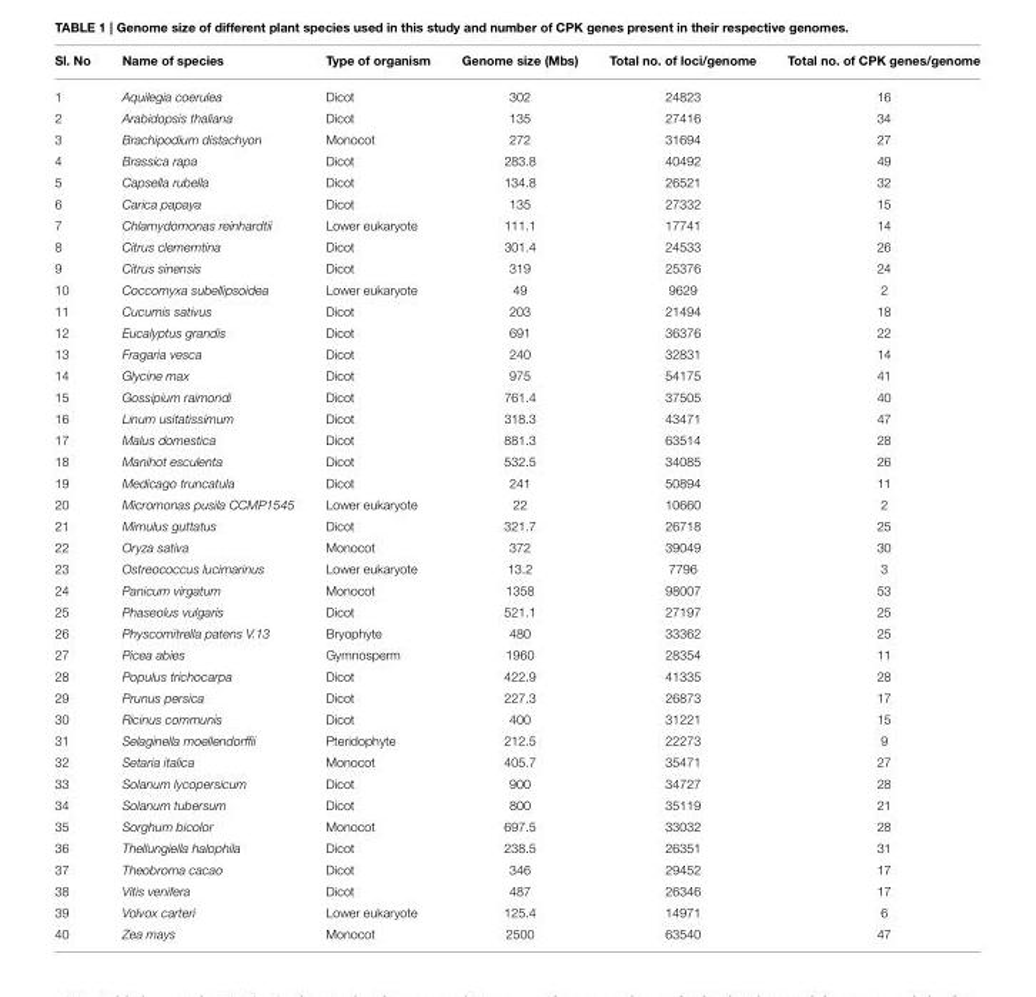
<table><thead><tr><td>Sl. No</td><td>Name of species</td><td>Type of organism</td><td>Genome size (Mbs)</td><td>Total no. of loci/genome</td><td>Total no. of CPK genes/genome</td></tr></thead><tbody><tr><td>1</td><td>Aquilegia coerulea</td><td>Dicot</td><td>302</td><td>24823</td><td>16</td></tr><tr><td>2</td><td>Arabidopsis thaliana</td><td>Dicot</td><td>135</td><td>27416</td><td>34</td></tr><tr><td>3</td><td>Brachipodium distachyon</td><td>Monocot</td><td>272</td><td>31694</td><td>27</td></tr><tr><td>4</td><td>Brassica rapa</td><td>Dicot</td><td>283.8</td><td>40492</td><td>49</td></tr><tr><td>5</td><td>Capsella rubella</td><td>Dicot</td><td>134.8</td><td>26521</td><td>32</td></tr><tr><td>6</td><td>Carica papaya</td><td>Dicot</td><td>135</td><td>27332</td><td>15</td></tr><tr><td>7</td><td>Chlamydomonas reinhardtii</td><td>Lower eukaryote</td><td>111.1</td><td>17741</td><td>14</td></tr><tr><td>8</td><td>Citrus clememtina</td><td>Dicot</td><td>301.4</td><td>24533</td><td>26</td></tr><tr><td>9</td><td>Citrus sinensis</td><td>Dicot</td><td>319</td><td>25376</td><td>24</td></tr><tr><td>10</td><td>Coccomyxa subellipsoidea</td><td>Lower eukaryote</td><td>49</td><td>9629</td><td>2</td></tr><tr><td>11</td><td>Cucumis sativus</td><td>Dicot</td><td>203</td><td>21494</td><td>18</td></tr><tr><td>12</td><td>Eucalyptus grandis</td><td>Dicot</td><td>691</td><td>36376</td><td>22</td></tr><tr><td>13</td><td>Fragaria vesca</td><td>Dicot</td><td>240</td><td>32831</td><td>14</td></tr><tr><td>14</td><td>Glycine max</td><td>Dicot</td><td>975</td><td>54175</td><td>41</td></tr><tr><td>15</td><td>Gossipium raimondi</td><td>Dicot</td><td>761.4</td><td>37505</td><td>40</td></tr><tr><td>16</td><td>Linum usitatissimum</td><td>Dicot</td><td>318.3</td><td>43471</td><td>47</td></tr><tr><td>17</td><td>Malus domestica</td><td>Dicot</td><td>881.3</td><td>63514</td><td>28</td></tr><tr><td>18</td><td>Manihot esculenta</td><td>Dicot</td><td>532.5</td><td>34085</td><td>26</td></tr><tr><td>19</td><td>Medicago truncatula</td><td>Dicot</td><td>241</td><td>50894</td><td>11</td></tr><tr><td>20</td><td>Micromonas pusila CCMP1545</td><td>Lower eukaryote</td><td>22</td><td>10660</td><td>2</td></tr><tr><td>21</td><td>Mimulus guttatus</td><td>Dicot</td><td>321.7</td><td>26718</td><td>25</td></tr><tr><td>22</td><td>Oryza sativa</td><td>Monocot</td><td>372</td><td>39049</td><td>30</td></tr><tr><td>23</td><td>Ostreococcus lucimarinus</td><td>Lower eukaryote</td><td>13.2</td><td>7796</td><td>3</td></tr><tr><td>24</td><td>Panicum virgatum</td><td>Monocot</td><td>1358</td><td>98007</td><td>53</td></tr><tr><td>25</td><td>Phaseolus vulgaris</td><td>Dicot</td><td>521.1</td><td>27197</td><td>25</td></tr><tr><td>26</td><td>Physcomitrella patens V.13</td><td>Bryophyte</td><td>480</td><td>33362</td><td>25</td></tr><tr><td>27</td><td>Picea abies</td><td>Gymnosperm</td><td>1960</td><td>28354</td><td>11</td></tr><tr><td>28</td><td>Populus trichocarpa</td><td>Dicot</td><td>422.9</td><td>41335</td><td>28</td></tr><tr><td>29</td><td>Prunus persica</td><td>Dicot</td><td>227.3</td><td>26873</td><td>17</td></tr><tr><td>30</td><td>Ricinus communis</td><td>Dicot</td><td>400</td><td>31221</td><td>15</td></tr><tr><td>31</td><td>Selaginella moellendorffii</td><td>Pteridophyte</td><td>212.5</td><td>22273</td><td>9</td></tr><tr><td>32</td><td>Setaria italica</td><td>Monocot</td><td>405.7</td><td>35471</td><td>27</td></tr><tr><td>33</td><td>Solanum lycopersicum</td><td>Dicot</td><td>900</td><td>34727</td><td>28</td></tr><tr><td>34</td><td>Solanum tubersum</td><td>Dicot</td><td>800</td><td>35119</td><td>21</td></tr><tr><td>35</td><td>Sorghum bicolor</td><td>Monocot</td><td>697.5</td><td>33032</td><td>28</td></tr><tr><td>36</td><td>Thellungiella halophila</td><td>Dicot</td><td>238.5</td><td>26351</td><td>31</td></tr><tr><td>37</td><td>Theobroma cacao</td><td>Dicot</td><td>346</td><td>29452</td><td>17</td></tr><tr><td>38</td><td>Vitis venifera</td><td>Dicot</td><td>487</td><td>26346</td><td>17</td></tr><tr><td>39</td><td>Volvox carteri</td><td>Lower eukaryote</td><td>125.4</td><td>14971</td><td>6</td></tr><tr><td>40</td><td>Zea mays</td><td>Monocot</td><td>2500</td><td>63540</td><td>47</td></tr></tbody></table>